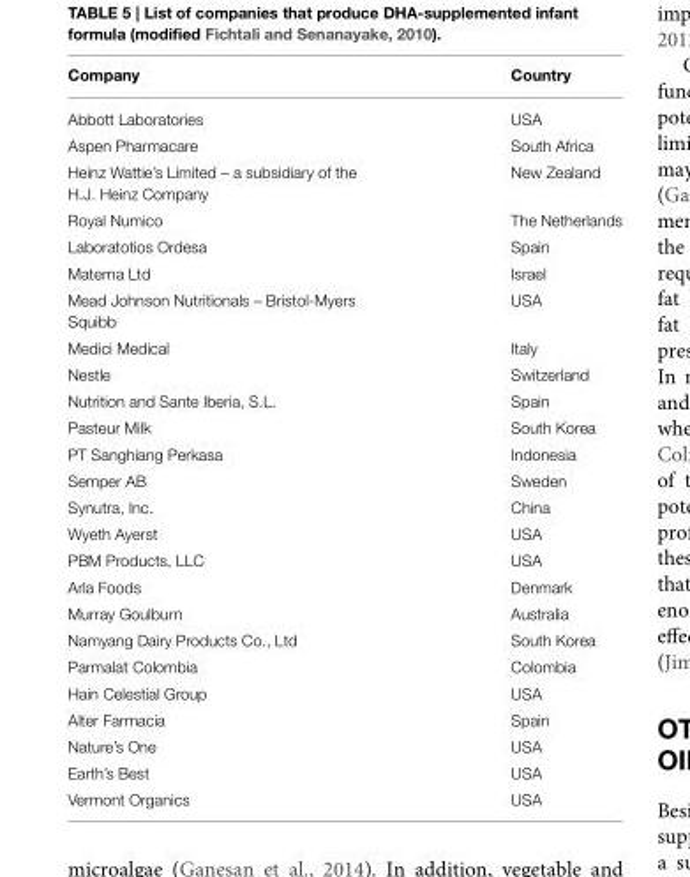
<table><thead><tr><td>Company</td><td>Country</td></tr></thead><tbody><tr><td>Abbott Laboratories</td><td>USA</td></tr><tr><td>Aspen Pharmacare</td><td>South Africa</td></tr><tr><td>Heinz Wattie’s Limited – a subsidiary of the H.J. Heinz Company</td><td>New Zealand</td></tr><tr><td>Royal Numico</td><td>The Netherlands</td></tr><tr><td>Laboratotios Ordesa</td><td>Spain</td></tr><tr><td>Materna Ltd</td><td>Israel</td></tr><tr><td>Mead Johnson Nutritionals – Bristol-Myers Squibb</td><td>USA</td></tr><tr><td>Medici Medical</td><td>Italy</td></tr><tr><td>Nestle</td><td>Switzerland</td></tr><tr><td>Nutrition and Sante Iberia, S.L.</td><td>Spain</td></tr><tr><td>Pasteur Milk</td><td>South Korea</td></tr><tr><td>PT Sanghiang Perkasa</td><td>Indonesia</td></tr><tr><td>Semper AB</td><td>Sweden</td></tr><tr><td>Synutra, Inc.</td><td>China</td></tr><tr><td>Wyeth Ayerst</td><td>USA</td></tr><tr><td>PBM Products, LLC</td><td>USA</td></tr><tr><td>Arla Foods</td><td>Denmark</td></tr><tr><td>Murray Goulburn</td><td>Australia</td></tr><tr><td>Namyang Dairy Products Co., Ltd</td><td>South Korea</td></tr><tr><td>Parmalat Colombia</td><td>Colombia</td></tr><tr><td>Hain Celestial Group</td><td>USA</td></tr><tr><td>Alter Farmacia</td><td>Spain</td></tr><tr><td>Nature’s One</td><td>USA</td></tr><tr><td>Earth’s Best</td><td>USA</td></tr><tr><td>Vermont Organics</td><td>USA</td></tr></tbody></table>